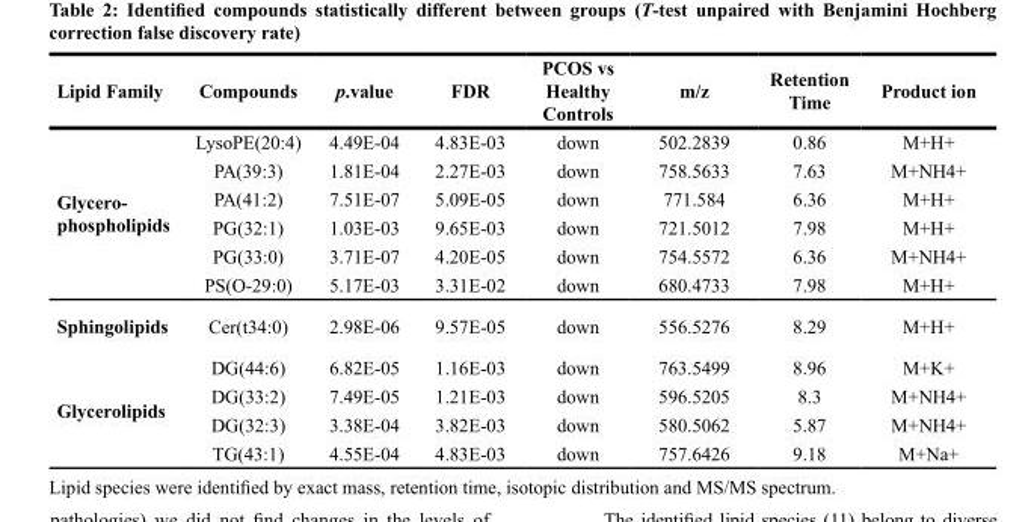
<table><thead><tr><td>Lipid Family</td><td>Compounds</td><td>p.value</td><td>FDR</td><td>PCOS vs Healthy Controls</td><td>m/z</td><td>Retention Time</td><td>Product ion</td></tr></thead><tbody><tr><td rowspan="6">Glycero- phospholipids</td><td>LysoPE(20:4)</td><td>4.49E-04</td><td>4.83E-03</td><td>down</td><td>502.2839</td><td>0.86</td><td>M+H+</td></tr><tr><td>PA(39:3)</td><td>1.81E-04</td><td>2.27E-03</td><td>down</td><td>758.5633</td><td>7.63</td><td>M+NH4+</td></tr><tr><td>PA(41:2)</td><td>7.51E-07</td><td>5.09E-05</td><td>down</td><td>771.584</td><td>6.36</td><td>M+H+</td></tr><tr><td>PG(32:1)</td><td>1.03E-03</td><td>9.65E-03</td><td>down</td><td>721.5012</td><td>7.98</td><td>M+H+</td></tr><tr><td>PG(33:0)</td><td>3.71E-07</td><td>4.20E-05</td><td>down</td><td>754.5572</td><td>6.36</td><td>M+NH4+</td></tr><tr><td>PS(O-29:0)</td><td>5.17E-03</td><td>3.31E-02</td><td>down</td><td>680.4733</td><td>7.98</td><td>M+H+</td></tr><tr><td>Sphingolipids</td><td>Cer(t34:0)</td><td>2.98E-06</td><td>9.57E-05</td><td>down</td><td>556.5276</td><td>8.29</td><td>M+H+</td></tr><tr><td rowspan="4">Glycerolipids</td><td>DG(44:6)</td><td>6.82E-05</td><td>1.16E-03</td><td>down</td><td>763.5499</td><td>8.96</td><td>M+K+</td></tr><tr><td>DG(33:2)</td><td>7.49E-05</td><td>1.21E-03</td><td>down</td><td>596.5205</td><td>8.3</td><td>M+NH4+</td></tr><tr><td>DG(32:3)</td><td>3.38E-04</td><td>3.82E-03</td><td>down</td><td>580.5062</td><td>5.87</td><td>M+NH4+</td></tr><tr><td>TG(43:1)</td><td>4.55E-04</td><td>4.83E-03</td><td>down</td><td>757.6426</td><td>9.18</td><td>M+Na+</td></tr></tbody></table>